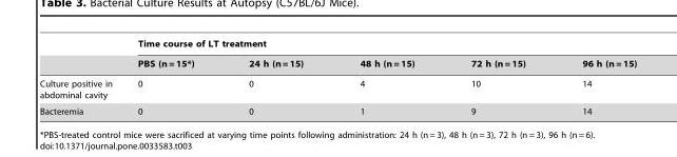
<table><thead><tr><td rowspan="2"></td><td colspan="5">Time course of LT treatment</td></tr><tr><td>PBS (n = 15*)</td><td>24 h (n = 15)</td><td>48 h (n = 15)</td><td>72 h (n = 15)</td><td>96 h (n = 15)</td></tr></thead><tbody><tr><td>Culture positive in abdominal cavity</td><td>0</td><td>0</td><td>4</td><td>10</td><td>14</td></tr><tr><td>Bacteremia</td><td>0</td><td>0</td><td>1</td><td>9</td><td>14</td></tr></tbody></table>